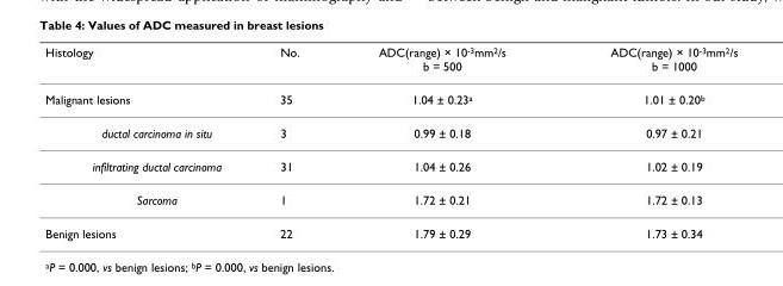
<table><thead><tr><td>Histology</td><td>No.</td><td>ADC(range) × 10<sup>-3</sup>mm<sup>2</sup>/s b = 500</td><td>ADC(range) × 10<sup>-3</sup>mm<sup>2</sup>/s b = 1000</td></tr></thead><tbody><tr><td>Malignant lesions</td><td>35</td><td>1.04 ± 0.23<sup>a</sup></td><td>1.01 ± 0.20<sup>b</sup></td></tr><tr><td>ductal carcinoma in situ</td><td>3</td><td>0.99 ± 0.18</td><td>0.97 ± 0.21</td></tr><tr><td>infiltrating ductal carcinoma</td><td>31</td><td>1.04 ± 0.26</td><td>1.02 ± 0.19</td></tr><tr><td>Sarcoma</td><td>1</td><td>1.72 ± 0.21</td><td>1.72 ± 0.13</td></tr><tr><td>Benign lesions</td><td>22</td><td>1.79 ± 0.29</td><td>1.73 ± 0.34</td></tr></tbody></table>